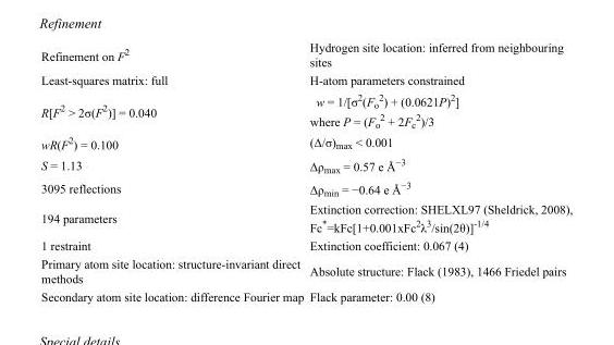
<table><tbody><tr><td>Refinement on F<sup>2</sup></td><td>Hydrogen site location: inferred from neighbouring sites</td></tr><tr><td>Least-squares matrix: full</td><td>H-atom parameters constrained</td></tr><tr><td>R[F<sup>2</sup> &gt; 2σ(F<sup>2</sup>)] = 0.040</td><td>w = 1/[σ<sup>2</sup>(F<sub>o</sub> <sup>2</sup>) + (0.0621P)<sup>2</sup>] where P = (F<sub>o</sub> <sup>2</sup> + 2F<sub>c</sub> <sup>2</sup>)/3</td></tr><tr><td>wR(F<sup>2</sup>) = 0.100</td><td>(Δ/σ)<sub>max</sub> &lt; 0.001</td></tr><tr><td>S = 1.13</td><td>Δρ<sub>max</sub> = 0.57 e Å<sup>−3</sup></td></tr><tr><td>3095 reflections</td><td>Δρ<sub>min</sub> = −0.64 e Å<sup>−3</sup></td></tr><tr><td>194 parameters</td><td>Extinction correction: SHELXL97 (Sheldrick, 2008), Fc*=kFc[1+0.001xFc<sup>2</sup>λ<sup>3</sup>/sin(2θ)]<sup>-1/4</sup></td></tr><tr><td>1 restraint</td><td>Extinction coefficient: 0.067 (4)</td></tr><tr><td>Primary atom site location: structure-invariant direct methods</td><td>Absolute structure: Flack (1983), 1466 Friedel pairs</td></tr><tr><td>Secondary atom site location: difference Fourier map</td><td>Flack parameter: 0.00 (8)</td></tr></tbody></table>